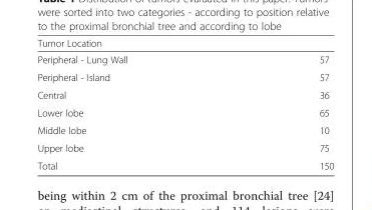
<table><thead><tr><td>Tumor Location</td><td></td></tr></thead><tbody><tr><td>Peripheral - Lung Wall</td><td>57</td></tr><tr><td>Peripheral - Island</td><td>57</td></tr><tr><td>Central</td><td>36</td></tr><tr><td>Lower lobe</td><td>65</td></tr><tr><td>Middle lobe</td><td>10</td></tr><tr><td>Upper lobe</td><td>75</td></tr><tr><td>Total</td><td>150</td></tr></tbody></table>